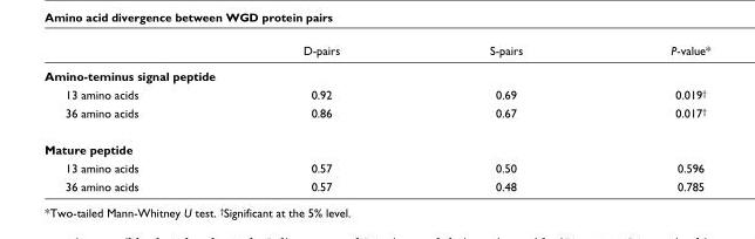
<table><thead><tr><td></td><td>D-pairs</td><td>S-pairs</td><td>P-value*</td></tr></thead><tbody><tr><td colspan="4">Amino-teminus signal peptide</td></tr><tr><td>13 amino acids</td><td>0.92</td><td>0.69</td><td>0.019<sup>†</sup></td></tr><tr><td>36 amino acids</td><td>0.86</td><td>0.67</td><td>0.017<sup>†</sup></td></tr><tr><td colspan="4">Mature peptide</td></tr><tr><td>13 amino acids</td><td>0.57</td><td>0.50</td><td>0.596</td></tr><tr><td>36 amino acids</td><td>0.57</td><td>0.48</td><td>0.785</td></tr></tbody></table>